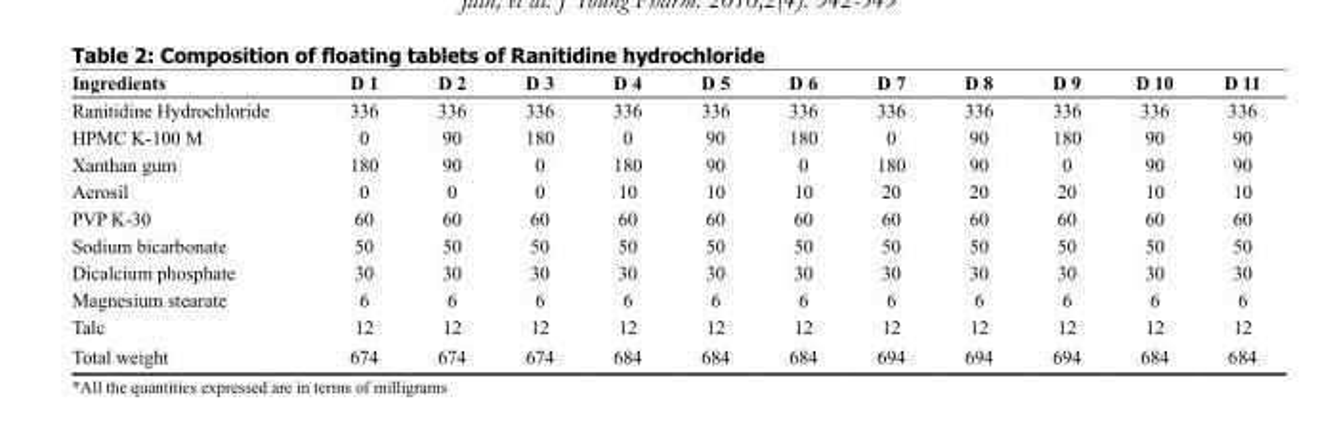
<table><thead><tr><td>Ingredients</td><td>D 1</td><td>D 2</td><td>D 3</td><td>D 4</td><td>D 5</td><td>D 6</td><td>D 7</td><td>D 8</td><td>D 9</td><td>D 10</td><td>D 11</td></tr></thead><tbody><tr><td>Ranitidine Hydrochloride</td><td>336</td><td>336</td><td>336</td><td>336</td><td>336</td><td>336</td><td>336</td><td>336</td><td>336</td><td>336</td><td>336</td></tr><tr><td>HPMC K-100 M</td><td>0</td><td>90</td><td>180</td><td>0</td><td>90</td><td>180</td><td>0</td><td>90</td><td>180</td><td>90</td><td>90</td></tr><tr><td>Xanthan gum</td><td>180</td><td>90</td><td>0</td><td>180</td><td>90</td><td>0</td><td>180</td><td>90</td><td>0</td><td>90</td><td>90</td></tr><tr><td>Aerosil</td><td>0</td><td>0</td><td>0</td><td>10</td><td>10</td><td>10</td><td>20</td><td>20</td><td>20</td><td>10</td><td>10</td></tr><tr><td>PVP K-30</td><td>60</td><td>60</td><td>60</td><td>60</td><td>60</td><td>60</td><td>60</td><td>60</td><td>60</td><td>60</td><td>60</td></tr><tr><td>Sodium bicarbonate</td><td>50</td><td>50</td><td>50</td><td>50</td><td>50</td><td>50</td><td>50</td><td>50</td><td>50</td><td>50</td><td>50</td></tr><tr><td>Dicalcium phosphate</td><td>30</td><td>30</td><td>30</td><td>30</td><td>30</td><td>30</td><td>30</td><td>30</td><td>30</td><td>30</td><td>30</td></tr><tr><td>Magnesium stearate</td><td>6</td><td>6</td><td>6</td><td>6</td><td>6</td><td>6</td><td>6</td><td>6</td><td>6</td><td>6</td><td>6</td></tr><tr><td>Talc</td><td>12</td><td>12</td><td>12</td><td>12</td><td>12</td><td>12</td><td>12</td><td>12</td><td>12</td><td>12</td><td>12</td></tr><tr><td>Total weight</td><td>674</td><td>674</td><td>674</td><td>684</td><td>684</td><td>684</td><td>694</td><td>694</td><td>694</td><td>684</td><td>684</td></tr></tbody></table>